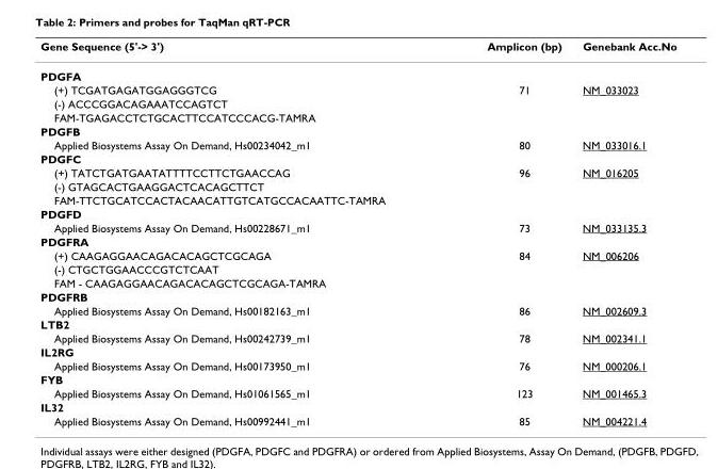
<table><thead><tr><td>Gene Sequence (5&#x27;-&gt; 3&#x27;)</td><td>Amplicon (bp)</td><td>Genebank Acc.No</td></tr></thead><tbody><tr><td colspan="3">PDGFA</td></tr><tr><td>(+) TCGATGAGATGGAGGGTCG</td><td>71</td><td>NM_033023</td></tr><tr><td colspan="3">(-) ACCCGGACAGAAATCCAGTCT</td></tr><tr><td colspan="3">FAM-TGAGACCTCTGCACTTCCATCCCACG-TAMRA</td></tr><tr><td colspan="3">PDGFB</td></tr><tr><td>Applied Biosystems Assay On Demand, Hs00234042_m1</td><td>80</td><td>NM_033016.1</td></tr><tr><td colspan="3">PDGFC</td></tr><tr><td>(+) TATCTGATGAATATTTTCCTTCTGAACCAG</td><td>96</td><td>NM_016205</td></tr><tr><td colspan="3">(-) GTAGCACTGAAGGACTCACAGCTTCT</td></tr><tr><td colspan="3">FAM-TTCTGCATCCACTACAACATTGTCATGCCACAATTC-TAMRA</td></tr><tr><td colspan="3">PDGFD</td></tr><tr><td>Applied Biosystems Assay On Demand, Hs00228671_m1</td><td>73</td><td>NM_033135.3</td></tr><tr><td colspan="3">PDGFRA</td></tr><tr><td>(+) CAAGAGGAACAGACACAGCTCGCAGA</td><td>84</td><td>NM_006206</td></tr><tr><td colspan="3">(-) CTGCTGGAACCCGTCTCAAT</td></tr><tr><td colspan="3">FAM - CAAGAGGAACAGACACAGCTCGCAGA-TAMRA</td></tr><tr><td colspan="3">PDGFRB</td></tr><tr><td>Applied Biosystems Assay On Demand, Hs00182163_m1</td><td>86</td><td>NM_002609.3</td></tr><tr><td colspan="3">LTB2</td></tr><tr><td>Applied Biosystems Assay On Demand, Hs00242739_m1</td><td>78</td><td>NM_002341.1</td></tr><tr><td colspan="3">IL2RG</td></tr><tr><td>Applied Biosystems Assay On Demand, Hs00173950_m1</td><td>76</td><td>NM_000206.1</td></tr><tr><td colspan="3">FYB</td></tr><tr><td>Applied Biosystems Assay On Demand, Hs01061565_m1</td><td>123</td><td>NM_001465.3</td></tr><tr><td colspan="3">IL32</td></tr><tr><td>Applied Biosystems Assay On Demand, Hs00992441_m1</td><td>85</td><td>NM_004221.4</td></tr></tbody></table>